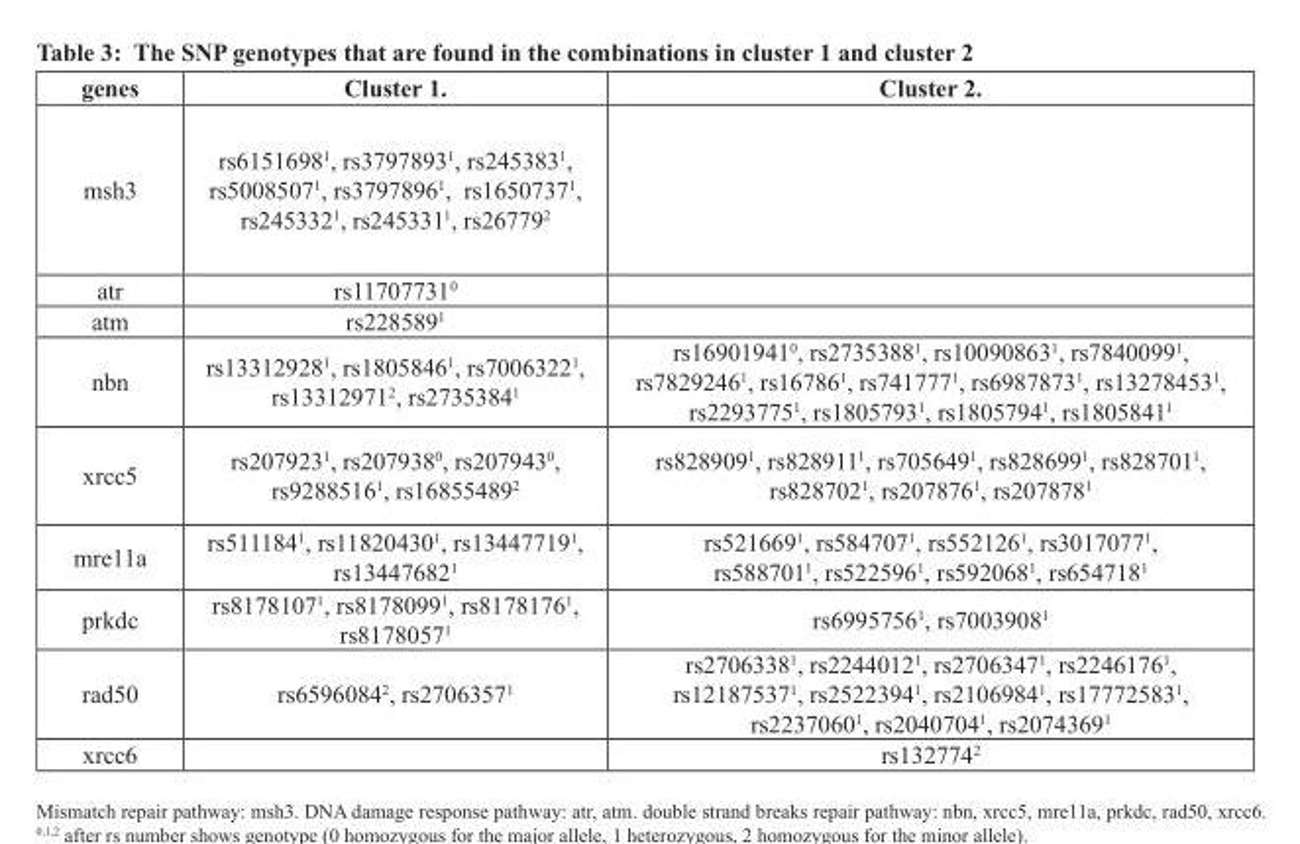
<table><thead><tr><td>genes</td><td>Cluster 1.</td><td>Cluster 2.</td></tr></thead><tbody><tr><td>msh3</td><td>rs6151698<sup>1</sup>, rs3797893<sup>1</sup>, rs245383<sup>1</sup>, rs5008507<sup>1</sup>, rs3797896<sup>1</sup>, rs1650737<sup>1</sup>, rs245332<sup>1</sup>, rs245331<sup>1</sup>, rs26779<sup>2</sup></td><td></td></tr><tr><td>atr</td><td>rs11707731<sup>0</sup></td><td></td></tr><tr><td>atm</td><td>rs228589<sup>1</sup></td><td></td></tr><tr><td>nbn</td><td>rs13312928<sup>1</sup>, rs1805846<sup>1</sup>, rs7006322<sup>1</sup>, rs13312971<sup>2</sup>, rs2735384<sup>1</sup></td><td>rs16901941<sup>0</sup>, rs2735388<sup>1</sup>, rs10090863<sup>1</sup>, rs7840099<sup>1</sup>, rs7829246<sup>1</sup>, rs16786<sup>1</sup>, rs741777<sup>1</sup>, rs6987873<sup>1</sup>, rs13278453<sup>1</sup>, rs2293775<sup>1</sup>, rs1805793<sup>1</sup>, rs1805794<sup>1</sup>, rs1805841<sup>1</sup></td></tr><tr><td>xrcc5</td><td>rs207923<sup>1</sup>, rs207938<sup>0</sup>, rs207943<sup>0</sup>, rs9288516<sup>1</sup>, rs16855489<sup>2</sup></td><td>rs828909<sup>1</sup>, rs828911<sup>1</sup>, rs705649<sup>1</sup>, rs828699<sup>1</sup>, rs828701<sup>1</sup>, rs828702<sup>1</sup>, rs207876<sup>1</sup>, rs207878<sup>1</sup></td></tr><tr><td>mre11a</td><td>rs511184<sup>1</sup>, rs11820430<sup>1</sup>, rs13447719<sup>1</sup>, rs13447682<sup>1</sup></td><td>rs521669<sup>1</sup>, rs584707<sup>1</sup>, rs552126<sup>1</sup>, rs3017077<sup>1</sup>, rs588701<sup>1</sup>, rs522596<sup>1</sup>, rs592068<sup>1</sup>, rs654718<sup>1</sup></td></tr><tr><td>prkdc</td><td>rs8178107<sup>1</sup>, rs8178099<sup>1</sup>, rs8178176<sup>1</sup>, rs8178057<sup>1</sup></td><td>rs6995756<sup>1</sup>, rs7003908<sup>1</sup></td></tr><tr><td>rad50</td><td>rs6596084<sup>2</sup>, rs2706357<sup>1</sup></td><td>rs2706338<sup>1</sup>, rs2244012<sup>1</sup>, rs2706347<sup>1</sup>, rs2246176<sup>1</sup>, rs12187537<sup>1</sup>, rs2522394<sup>1</sup>, rs2106984<sup>1</sup>, rs17772583<sup>1</sup>, rs2237060<sup>1</sup>, rs2040704<sup>1</sup>, rs2074369<sup>1</sup></td></tr><tr><td>xrcc6</td><td></td><td>rs132774<sup>2</sup></td></tr></tbody></table>